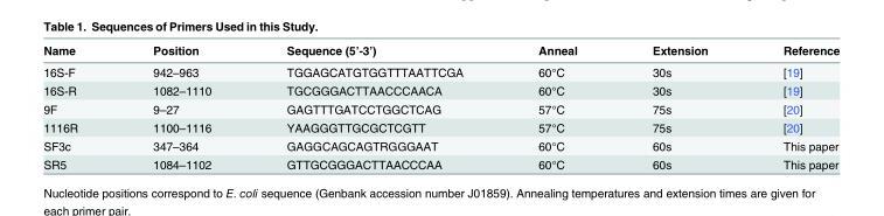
<table><thead><tr><td>Name</td><td>Position</td><td>Sequence (5’-3’)</td><td>Anneal</td><td>Extension</td><td>Reference</td></tr></thead><tbody><tr><td>16S-F</td><td>942–963</td><td>TGGAGCATGTGGTTTAATTCGA</td><td>60°C</td><td>30s</td><td>[19]</td></tr><tr><td>16S-R</td><td>1082–1110</td><td>TGCGGGACTTAACCCAACA</td><td>60°C</td><td>30s</td><td>[19]</td></tr><tr><td>9F</td><td>9–27</td><td>GAGTTTGATCCTGGCTCAG</td><td>57°C</td><td>75s</td><td>[20]</td></tr><tr><td>1116R</td><td>1100–1116</td><td>YAAGGGTTGCGCTCGTT</td><td>57°C</td><td>75s</td><td>[20]</td></tr><tr><td>SF3c</td><td>347–364</td><td>GAGGCAGCAGTRGGGAAT</td><td>60°C</td><td>60s</td><td>This paper</td></tr><tr><td>SR5</td><td>1084–1102</td><td>GTTGCGGGACTTAACCCAA</td><td>60°C</td><td>60s</td><td>This paper</td></tr></tbody></table>